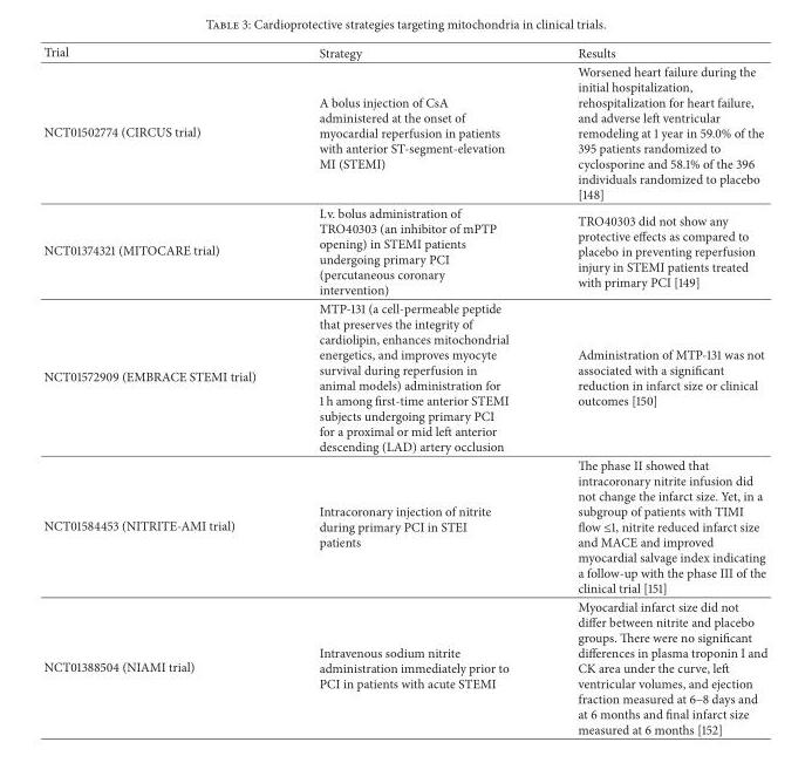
<table><thead><tr><td>Trial</td><td>Strategy</td><td>Results</td></tr></thead><tbody><tr><td>NCT01502774 (CIRCUS trial)</td><td>A bolus injection of CsA administered at the onset of myocardial reperfusion in patients with anterior ST-segment-elevation MI (STEMI)</td><td>Worsened heart failure during the initial hospitalization, rehospitalization for heart failure, and adverse left ventricular remodeling at 1 year in 59.0% of the 395 patients randomized to cyclosporine and 58.1% of the 396 individuals randomized to placebo [148]</td></tr><tr><td>NCT01374321 (MITOCARE trial)</td><td>I.v. bolus administration of TRO40303 (an inhibitor of mPTP opening) in STEMI patients undergoing primary PCI (percutaneous coronary intervention)</td><td>TRO40303 did not show any protective effects as compared to placebo in preventing reperfusion injury in STEMI patients treated with primary PCI [149]</td></tr><tr><td>NCT01572909 (EMBRACE STEMI trial)</td><td>MTP-131 (a cell-permeable peptide that preserves the integrity of cardiolipin, enhances mitochondrial energetics, and improves myocyte survival during reperfusion in animal models) administration for 1 h among first-time anterior STEMI subjects undergoing primary PCI for a proximal or mid left anterior descending (LAD) artery occlusion</td><td>Administration of MTP-131 was not associated with a significant reduction in infarct size or clinical outcomes [150]</td></tr><tr><td>NCT01584453 (NITRITE-AMI trial)</td><td>Intracoronary injection of nitrite during primary PCI in STEI patients</td><td>The phase II showed that intracoronary nitrite infusion did not change the infarct size. Yet, in a subgroup of patients with TIMI flow ≤1, nitrite reduced infarct size and MACE and improved myocardial salvage index indicating a follow-up with the phase III of the clinical trial [151]</td></tr><tr><td>NCT01388504 (NIAMI trial)</td><td>Intravenous sodium nitrite administration immediately prior to PCI in patients with acute STEMI</td><td>Myocardial infarct size did not differ between nitrite and placebo groups. There were no significant differences in plasma troponin I and CK area under the curve, left ventricular volumes, and ejection fraction measured at 6–8 days and at 6 months and final infarct size measured at 6 months [152]</td></tr></tbody></table>